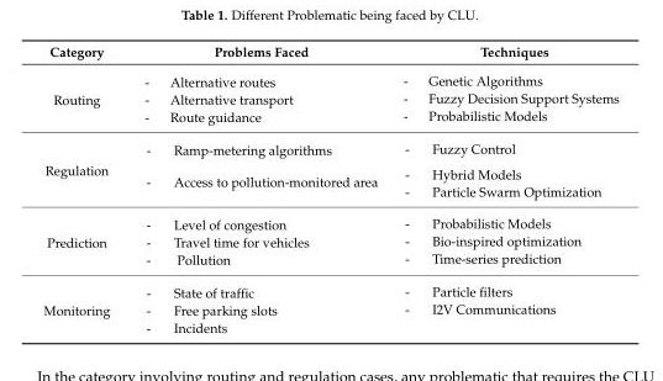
<table><thead><tr><td>Category</td><td>Problems Faced</td><td>Techniques</td></tr></thead><tbody><tr><td>Routing</td><td>- Alternative routes - Alternative transport - Route guidance</td><td>- Genetic Algorithms - Fuzzy Decision Support Systems - Probabilistic Models</td></tr><tr><td rowspan="3">Regulation</td><td>- Ramp-metering algorithms</td><td>- Fuzzy Control</td></tr><tr><td rowspan="2">- Access to pollution-monitored area</td><td>- Hybrid Models</td></tr><tr><td>- Particle Swarm Optimization</td></tr><tr><td>Prediction</td><td>- Level of congestion - Travel time for vehicles - Pollution</td><td>- Probabilistic Models - Bio-inspired optimization - Time-series prediction</td></tr><tr><td>Monitoring</td><td>- State of traffic - Free parking slots - Incidents</td><td>- Particle filters - I2V Communications</td></tr></tbody></table>